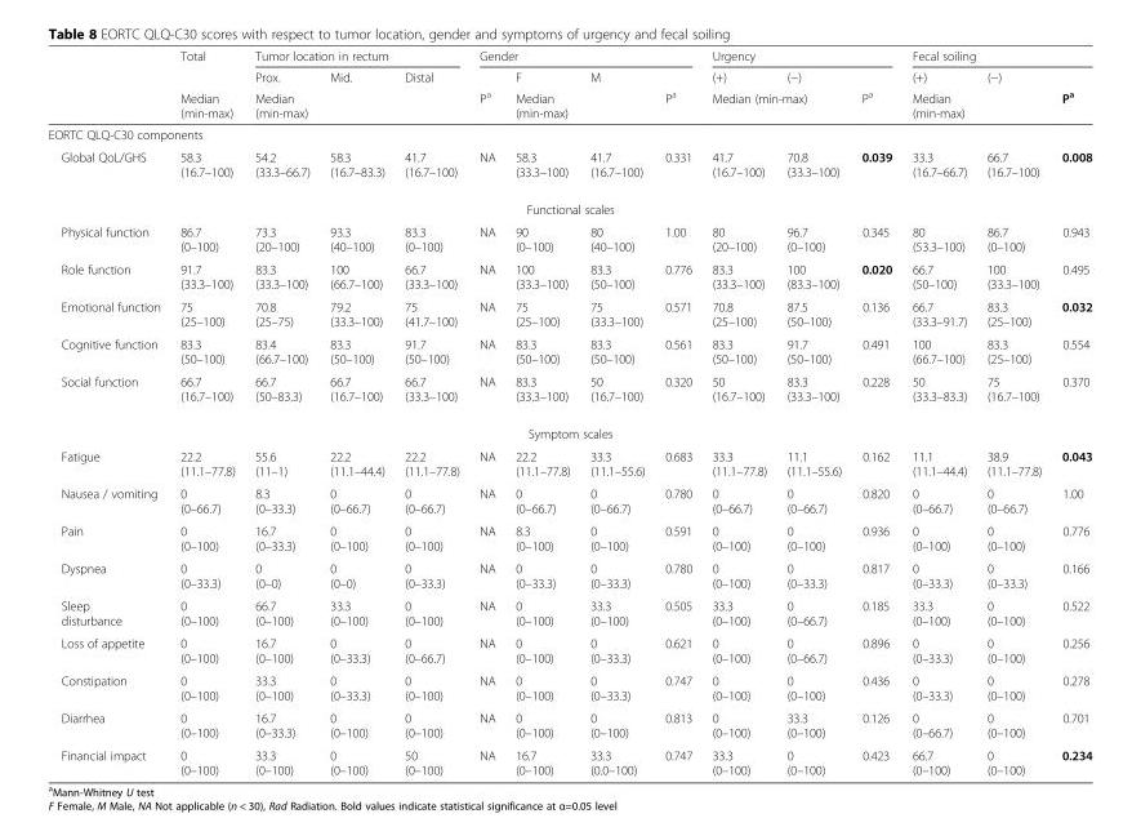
<table><thead><tr><td rowspan="3"></td><td rowspan="3">Total Median (min-max)</td><td colspan="3">Tumor location in rectum</td><td colspan="4">Gender</td><td colspan="3">Urgency</td><td colspan="3">Fecal soiling</td></tr><tr><td>Prox.</td><td>Mid.</td><td>Distal</td><td rowspan="2">Pa</td><td>F</td><td>M</td><td rowspan="2">Pa</td><td>(+)</td><td>(−)</td><td rowspan="2">Pa</td><td>(+)</td><td>(−)</td><td rowspan="2">Pa</td></tr><tr><td colspan="3">Median (min-max)</td><td colspan="2">Median (min-max)</td><td colspan="2">Median (min-max)</td><td colspan="2">Median (min-max)</td></tr></thead><tbody><tr><td colspan="15">EORTC QLQ-C30 components</td></tr><tr><td>Global QoL/GHS</td><td>58.3 (16.7–100)</td><td>54.2 (33.3–66.7)</td><td>58.3 (16.7–83.3)</td><td>41.7 (16.7–100)</td><td>NA</td><td>58.3 (33.3–100)</td><td>41.7 (16.7–100)</td><td>0.331</td><td>41.7 (16.7–100)</td><td>70.8 (33.3–100)</td><td>0.039</td><td>33.3 (16.7–66.7)</td><td>66.7 (16.7–100)</td><td>0.008</td></tr><tr><td colspan="15">Functional scales</td></tr><tr><td>Physical function</td><td>86.7 (0–100)</td><td>73.3 (20–100)</td><td>93.3 (40–100)</td><td>83.3 (0–100)</td><td>NA</td><td>90 (0–100)</td><td>80 (40–100)</td><td>1.00</td><td>80 (20–100)</td><td>96.7 (0–100)</td><td>0.345</td><td>80 (53.3–100)</td><td>86.7 (0–100)</td><td>0.943</td></tr><tr><td>Role function</td><td>91.7 (33.3–100)</td><td>83.3 (33.3–100)</td><td>100 (66.7–100)</td><td>66.7 (33.3–100)</td><td>NA</td><td>100 (33.3–100)</td><td>83.3 (50–100)</td><td>0.776</td><td>83.3 (33.3–100)</td><td>100 (83.3–100)</td><td>0.020</td><td>66.7 (50–100)</td><td>100 (33.3–100)</td><td>0.495</td></tr><tr><td>Emotional function</td><td>75 (25–100)</td><td>70.8 (25–75)</td><td>79.2 (33.3–100)</td><td>75 (41.7–100)</td><td>NA</td><td>75 (25–100)</td><td>75 (33.3–100)</td><td>0.571</td><td>70.8 (25–100)</td><td>87.5 (50–100)</td><td>0.136</td><td>66.7 (33.3–91.7)</td><td>83.3 (25–100)</td><td>0.032</td></tr><tr><td>Cognitive function</td><td>83.3 (50–100)</td><td>83.4 (66.7–100)</td><td>83.3 (50–100)</td><td>91.7 (50–100)</td><td>NA</td><td>83.3 (50–100)</td><td>83.3 (50–100)</td><td>0.561</td><td>83.3 (50–100)</td><td>91.7 (50–100)</td><td>0.491</td><td>100 (66.7–100)</td><td>83.3 (25–100)</td><td>0.554</td></tr><tr><td>Social function</td><td>66.7 (16.7–100)</td><td>66.7 (50–83.3)</td><td>66.7 (16.7–100)</td><td>66.7 (33.3–100)</td><td>NA</td><td>83.3 (33.3–100)</td><td>50 (16.7–100)</td><td>0.320</td><td>50 (16.7–100)</td><td>83.3 (33.3–100)</td><td>0.228</td><td>50 (33.3–83.3)</td><td>75 (16.7–100)</td><td>0.370</td></tr><tr><td colspan="15">Symptom scales</td></tr><tr><td>Fatigue</td><td>22.2 (11.1–77.8)</td><td>55.6 (11–1)</td><td>22.2 (11.1–44.4)</td><td>22.2 (11.1–77.8)</td><td>NA</td><td>22.2 (11.1–77.8)</td><td>33.3 (11.1–55.6)</td><td>0.683</td><td>33.3 (11.1–77.8)</td><td>11.1 (11.1–55.6)</td><td>0.162</td><td>11.1 (11.1–44.4)</td><td>38.9 (11.1–77.8)</td><td>0.043</td></tr><tr><td>Nausea / vomiting</td><td>0 (0–66.7)</td><td>8.3 (0–33.3)</td><td>0 (0–66.7)</td><td>0 (0–66.7)</td><td>NA</td><td>0 (0–66.7)</td><td>0 (0–66.7)</td><td>0.780</td><td>0 (0–66.7)</td><td>0 (0–66.7)</td><td>0.820</td><td>0 (0–66.7)</td><td>0 (0–66.7)</td><td>1.00</td></tr><tr><td>Pain</td><td>0 (0–100)</td><td>16.7 (0–33.3)</td><td>0 (0–100)</td><td>0 (0–100)</td><td>NA</td><td>8.3 (0–100)</td><td>0 (0–100)</td><td>0.591</td><td>0 (0–100)</td><td>0 (0–100)</td><td>0.936</td><td>0 (0–100)</td><td>0 (0–100)</td><td>0.776</td></tr><tr><td>Dyspnea</td><td>0 (0–33.3)</td><td>0 (0–0)</td><td>0 (0–0)</td><td>0 (0–33.3)</td><td>NA</td><td>0 (0–33.3)</td><td>0 (0–33.3)</td><td>0.780</td><td>0 (0–100)</td><td>0 (0–33.3)</td><td>0.817</td><td>0 (0–33.3)</td><td>0 (0–33.3)</td><td>0.166</td></tr><tr><td>Sleep disturbance</td><td>0 (0–100)</td><td>66.7 (0–100)</td><td>33.3 (0–100)</td><td>0 (0–100)</td><td>NA</td><td>0 (0–100)</td><td>33.3 (0–100)</td><td>0.505</td><td>33.3 (0–100)</td><td>0 (0–66.7)</td><td>0.185</td><td>33.3 (0–100)</td><td>0 (0–100)</td><td>0.522</td></tr><tr><td>Loss of appetite</td><td>0 (0–100)</td><td>16.7 (0–100)</td><td>0 (0–33.3)</td><td>0 (0–66.7)</td><td>NA</td><td>0 (0–100)</td><td>0 (0–33.3)</td><td>0.621</td><td>0 (0–100)</td><td>0 (0–66.7)</td><td>0.896</td><td>0 (0–33.3)</td><td>0 (0–100)</td><td>0.256</td></tr><tr><td>Constipation</td><td>0 (0–100)</td><td>33.3 (0–100)</td><td>0 (0–33.3)</td><td>0 (0–100)</td><td>NA</td><td>0 (0–100)</td><td>0 (0–33.3)</td><td>0.747</td><td>0 (0–100)</td><td>0 (0–100)</td><td>0.436</td><td>0 (0–33.3)</td><td>0 (0–100)</td><td>0.278</td></tr><tr><td>Diarrhea</td><td>0 (0–100)</td><td>16.7 (0–33.3)</td><td>0 (0–100)</td><td>0 (0–100)</td><td>NA</td><td>0 (0–100)</td><td>0 (0–100)</td><td>0.813</td><td>0 (0–100)</td><td>33.3 (0–100)</td><td>0.126</td><td>0 (0–66.7)</td><td>0 (0–100)</td><td>0.701</td></tr><tr><td>Financial impact</td><td>0 (0–100)</td><td>33.3 (0–100)</td><td>0 (0–100)</td><td>50 (0–100)</td><td>NA</td><td>16.7 (0–100)</td><td>33.3 (0.0–100)</td><td>0.747</td><td>33.3 (0–100)</td><td>0 (0–100)</td><td>0.423</td><td>66.7 (0–100)</td><td>0 (0–100)</td><td>0.234</td></tr></tbody></table>